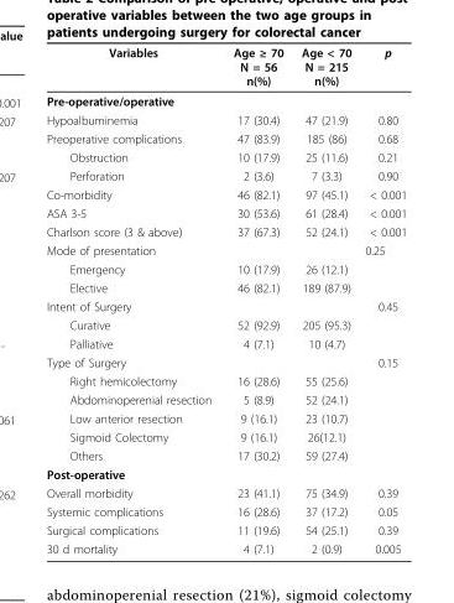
<table><thead><tr><td>Variables</td><td>Age ≥ 70 N = 56 n(%)</td><td>Age &lt; 70 N = 215 n(%)</td><td>p</td></tr></thead><tbody><tr><td colspan="4">Pre-operative/operative</td></tr><tr><td>Hypoalbuminemia</td><td>17 (30.4)</td><td>47 (21.9)</td><td>0.80</td></tr><tr><td>Preoperative complications</td><td>47 (83.9)</td><td>185 (86)</td><td>0.68</td></tr><tr><td>Obstruction</td><td>10 (17.9)</td><td>25 (11.6)</td><td>0.21</td></tr><tr><td>Perforation</td><td>2 (3.6)</td><td>7 (3.3)</td><td>0.90</td></tr><tr><td>Co-morbidity</td><td>46 (82.1)</td><td>97 (45.1)</td><td>&lt; 0.001</td></tr><tr><td>ASA 3-5</td><td>30 (53.6)</td><td>61 (28.4)</td><td>&lt; 0.001</td></tr><tr><td>Charlson score (3 &amp; above)</td><td>37 (67.3)</td><td>52 (24.1)</td><td>&lt; 0.001</td></tr><tr><td>Mode of presentation</td><td></td><td></td><td>0.25</td></tr><tr><td>Emergency</td><td>10 (17.9)</td><td>26 (12.1)</td><td></td></tr><tr><td>Elective</td><td>46 (82.1)</td><td>189 (87.9)</td><td></td></tr><tr><td>Intent of Surgery</td><td></td><td></td><td>0.45</td></tr><tr><td>Curative</td><td>52 (92.9)</td><td>205 (95.3)</td><td></td></tr><tr><td>Palliative</td><td>4 (7.1)</td><td>10 (4.7)</td><td></td></tr><tr><td>Type of Surgery</td><td></td><td></td><td>0.15</td></tr><tr><td>Right hemicolectomy</td><td>16 (28.6)</td><td>55 (25.6)</td><td></td></tr><tr><td>Abdominoperenial resection</td><td>5 (8.9)</td><td>52 (24.1)</td><td></td></tr><tr><td>Low anterior resection</td><td>9 (16.1)</td><td>23 (10.7)</td><td></td></tr><tr><td>Sigmoid Colectomy</td><td>9 (16.1)</td><td>26(12.1)</td><td></td></tr><tr><td>Others</td><td>17 (30.2)</td><td>59 (27.4)</td><td></td></tr><tr><td colspan="4">Post-operative</td></tr><tr><td>Overall morbidity</td><td>23 (41.1)</td><td>75 (34.9)</td><td>0.39</td></tr><tr><td>Systemic complications</td><td>16 (28.6)</td><td>37 (17.2)</td><td>0.05</td></tr><tr><td>Surgical complications</td><td>11 (19.6)</td><td>54 (25.1)</td><td>0.39</td></tr><tr><td>30 d mortality</td><td>4 (7.1)</td><td>2 (0.9)</td><td>0.005</td></tr></tbody></table>